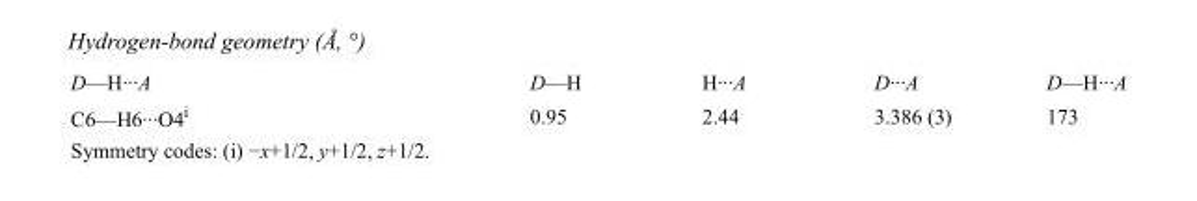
<table><tbody><tr><td>D—H···A</td><td>D—H</td><td>H···A</td><td>D···A</td><td>D—H···A</td></tr><tr><td>C6—H6···O4<sup>i</sup></td><td>0.95</td><td>2.44</td><td>3.386 (3)</td><td>173</td></tr></tbody></table>